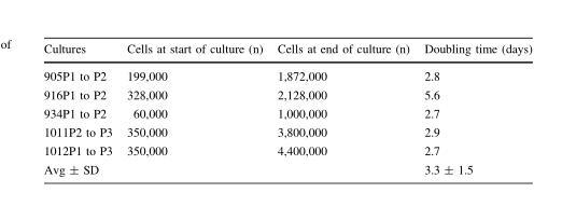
<table><thead><tr><td>Cultures</td><td>Cells at start of culture (n)</td><td>Cells at end of culture (n)</td><td>Doubling time (days)</td></tr></thead><tbody><tr><td>905P1 to P2</td><td>199,000</td><td>1,872,000</td><td>2.8</td></tr><tr><td>916P1 to P2</td><td>328,000</td><td>2,128,000</td><td>5.6</td></tr><tr><td>934P1 to P2</td><td>60,000</td><td>1,000,000</td><td>2.7</td></tr><tr><td>1011P2 to P3</td><td>350,000</td><td>3,800,000</td><td>2.9</td></tr><tr><td>1012P1 to P3</td><td>350,000</td><td>4,400,000</td><td>2.7</td></tr><tr><td>Avg ± SD</td><td></td><td></td><td>3.3 ± 1.5</td></tr></tbody></table>